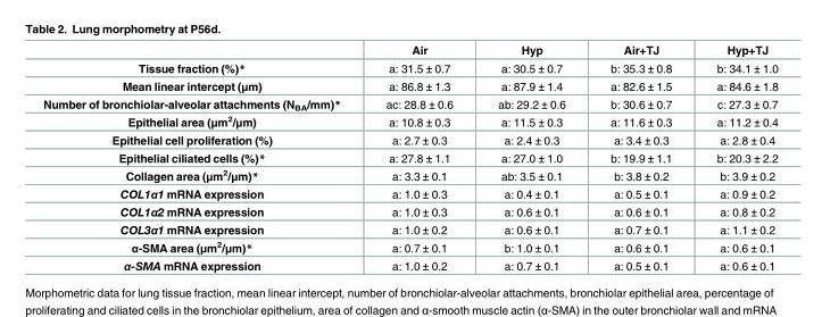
<table><thead><tr><td></td><td>Air</td><td>Hyp</td><td>Air+TJ</td><td>Hyp+TJ</td></tr></thead><tbody><tr><td>Tissue fraction (%)*</td><td>a: 31.5 ± 0.7</td><td>a: 30.5 ± 0.7</td><td>b: 35.3 ± 0.8</td><td>b: 34.1 ± 1.0</td></tr><tr><td>Mean linear intercept (μm)</td><td>a: 86.8 ± 1.3</td><td>a: 87.9 ± 1.4</td><td>a: 82.6 ± 1.5</td><td>a: 84.6 ± 1.8</td></tr><tr><td>Number of bronchiolar-alveolar attachments (N<sub>BA</sub>/mm)*</td><td>ac: 28.8 ± 0.6</td><td>ab: 29.2 ± 0.6</td><td>b: 30.6 ± 0.7</td><td>c: 27.3 ± 0.7</td></tr><tr><td>Epithelial area (μm<sup>2</sup>/μm)</td><td>a: 10.8 ± 0.3</td><td>a: 11.5 ± 0.3</td><td>a: 11.6 ± 0.3</td><td>a: 11.2 ± 0.4</td></tr><tr><td>Epithelial cell proliferation (%)</td><td>a: 2.7 ± 0.3</td><td>a: 2.4 ± 0.3</td><td>a: 3.4 ± 0.3</td><td>a: 2.8 ± 0.4</td></tr><tr><td>Epithelial ciliated cells (%)*</td><td>a: 27.8 ± 1.1</td><td>a: 27.0 ± 1.0</td><td>b: 19.9 ± 1.1</td><td>b: 20.3 ± 2.2</td></tr><tr><td>Collagen area (μm<sup>2</sup>/μm)*</td><td>a: 3.3 ± 0.1</td><td>ab: 3.5 ± 0.1</td><td>b: 3.8 ± 0.2</td><td>b: 3.9 ± 0.2</td></tr><tr><td>COL1α1 mRNA expression</td><td>a: 1.0 ± 0.3</td><td>a: 0.4 ± 0.1</td><td>a: 0.5 ± 0.1</td><td>a: 0.9 ± 0.2</td></tr><tr><td>COL1α2 mRNA expression</td><td>a: 1.0 ± 0.3</td><td>a: 0.6 ± 0.1</td><td>a: 0.6 ± 0.1</td><td>a: 0.8 ± 0.2</td></tr><tr><td>COL3α1 mRNA expression</td><td>a: 1.0 ± 0.2</td><td>a: 0.6 ± 0.1</td><td>a: 0.7 ± 0.1</td><td>a: 1.1 ± 0.2</td></tr><tr><td>α-SMA area (μm<sup>2</sup>/μm)*</td><td>a: 0.7 ± 0.1</td><td>b: 1.0 ± 0.1</td><td>a: 0.6 ± 0.1</td><td>a: 0.6 ± 0.1</td></tr><tr><td>α-SMA mRNA expression</td><td>a: 1.0 ± 0.2</td><td>a: 0.7 ± 0.1</td><td>a: 0.5 ± 0.1</td><td>a: 0.6 ± 0.1</td></tr></tbody></table>